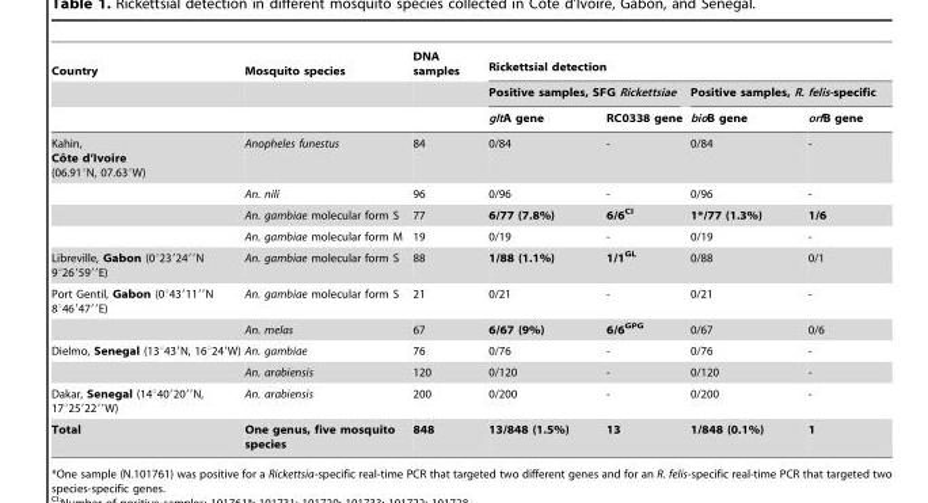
<table><thead><tr><td rowspan="3">Country</td><td rowspan="3">Mosquito species</td><td rowspan="3">DNA samples</td><td colspan="4">Rickettsial detection</td></tr><tr><td colspan="2">Positive samples, SFG Rickettsiae</td><td colspan="2">Positive samples, R. felis-specific</td></tr><tr><td>gltA gene</td><td>RC0338 gene</td><td>bioB gene</td><td>orfB gene</td></tr></thead><tbody><tr><td rowspan="4">Kahin, Coˆ te d’Ivoire (06.91uN, 07.63uW)</td><td>Anopheles funestus</td><td>84</td><td>0/84</td><td>-</td><td>0/84</td><td>-</td></tr><tr><td>An. nili</td><td>96</td><td>0/96</td><td>-</td><td>0/96</td><td>-</td></tr><tr><td>An. gambiae molecular form S</td><td>77</td><td>6/77 (7.8%)</td><td>6/6CI</td><td>1*/77 (1.3%)</td><td>1/6</td></tr><tr><td>An. gambiae molecular form M</td><td>19</td><td>0/19</td><td>-</td><td>0/19</td><td>-</td></tr><tr><td>Libreville, Gabon (0°23′24′′N 9°26′59′′E)</td><td>An. gambiae molecular form S</td><td>88</td><td>1/88 (1.1%)</td><td>1/1GL</td><td>0/88</td><td>0/1</td></tr><tr><td rowspan="2">Port Gentil, Gabon (0°43′11′′N 8°46′47′′E)</td><td>An. gambiae molecular form S</td><td>21</td><td>0/21</td><td>-</td><td>0/21</td><td>-</td></tr><tr><td>An. melas</td><td>67</td><td>6/67 (9%)</td><td>6/6GPG</td><td>0/67</td><td>0/6</td></tr><tr><td rowspan="2">Dielmo, Senegal (13°43′N, 16°24′W)</td><td>An. gambiae</td><td>76</td><td>0/76</td><td>-</td><td>0/76</td><td>-</td></tr><tr><td>An. arabiensis</td><td>120</td><td>0/120</td><td>-</td><td>0/120</td><td>-</td></tr><tr><td>Dakar, Senegal (14°40′20′′N, 17°25′22′′W)</td><td>An. arabiensis</td><td>200</td><td>0/200</td><td>-</td><td>0/200</td><td>-</td></tr><tr><td>Total</td><td>One genus, five mosquito species</td><td>848</td><td>13/848 (1.5%)</td><td>13</td><td>1/848 (0.1%)</td><td>1</td></tr></tbody></table>